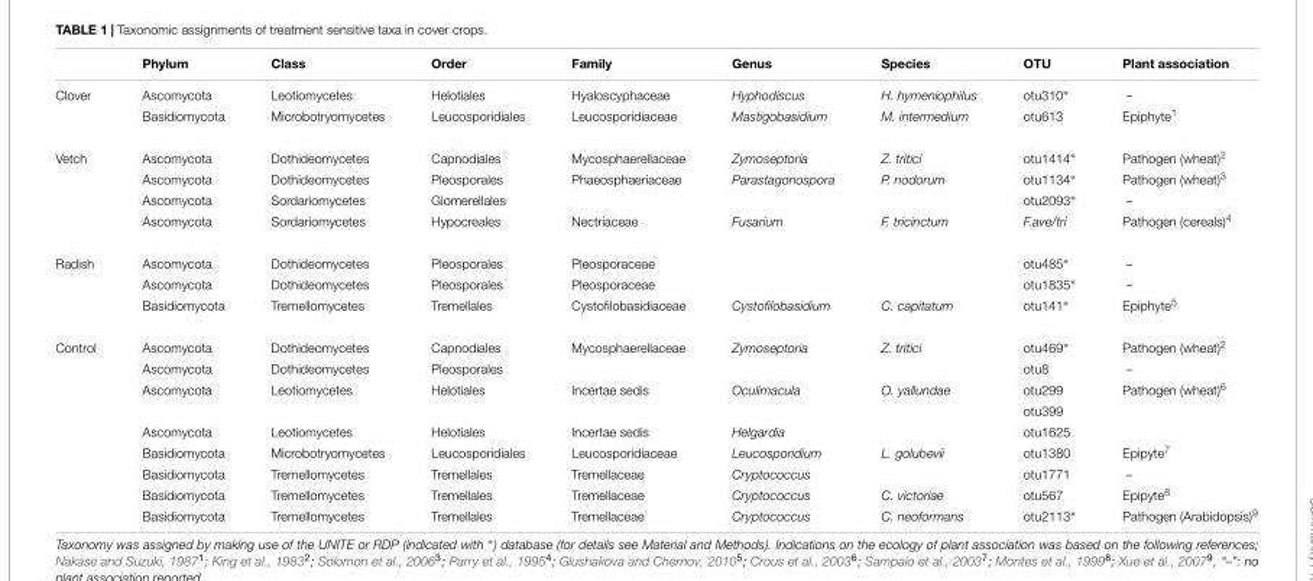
<table><thead><tr><td></td><td>Phylum</td><td>Class</td><td>Order</td><td>Family</td><td>Genus</td><td>Species</td><td>OTU</td><td>Plant association</td></tr></thead><tbody><tr><td rowspan="2">Clover</td><td>Ascomycota</td><td>Leotiomycetes</td><td>Helotiales</td><td>Hyaloscyphaceae</td><td>Hyphodiscus</td><td>H. hymeniophilus</td><td>otu310∗</td><td>–</td></tr><tr><td>Basidiomycota</td><td>Microbotryomycetes</td><td>Leucosporidiales</td><td>Leucosporidiaceae</td><td>Mastigobasidium</td><td>M. intermedium</td><td>otu613</td><td>Epiphyte<sup>1</sup></td></tr><tr><td rowspan="4">Vetch</td><td>Ascomycota</td><td>Dothideomycetes</td><td>Capnodiales</td><td>Mycosphaerellaceae</td><td>Zymoseptoria</td><td>Z. tritici</td><td>otu1414∗</td><td>Pathogen (wheat)<sup>2</sup></td></tr><tr><td>Ascomycota</td><td>Dothideomycetes</td><td>Pleosporales</td><td>Phaeosphaeriaceae</td><td>Parastagonospora</td><td>P. nodorum</td><td>otu1134∗</td><td>Pathogen (wheat)<sup>3</sup></td></tr><tr><td>Ascomycota</td><td>Sordariomycetes</td><td>Glomerellales</td><td></td><td></td><td></td><td>otu2093∗</td><td>–</td></tr><tr><td>Ascomycota</td><td>Sordariomycetes</td><td>Hypocreales</td><td>Nectriaceae</td><td>Fusarium</td><td>F. tricinctum</td><td>F.ave/tri</td><td>Pathogen (cereals)<sup>4</sup></td></tr><tr><td rowspan="3">Radish</td><td>Ascomycota</td><td>Dothideomycetes</td><td>Pleosporales</td><td>Pleosporaceae</td><td></td><td></td><td>otu485∗</td><td>–</td></tr><tr><td>Ascomycota</td><td>Dothideomycetes</td><td>Pleosporales</td><td>Pleosporaceae</td><td></td><td></td><td>otu1835∗</td><td>–</td></tr><tr><td>Basidiomycota</td><td>Tremellomycetes</td><td>Tremellales</td><td>Cystofilobasidiaceae</td><td>Cystofilobasidium</td><td>C. capitatum</td><td>otu141∗</td><td>Epiphyte<sup>5</sup></td></tr><tr><td rowspan="9">Control</td><td>Ascomycota</td><td>Dothideomycetes</td><td>Capnodiales</td><td>Mycosphaerellaceae</td><td>Zymoseptoria</td><td>Z. tritici</td><td>otu469∗</td><td>Pathogen (wheat)<sup>2</sup></td></tr><tr><td>Ascomycota</td><td>Dothideomycetes</td><td>Pleosporales</td><td></td><td></td><td></td><td>otu8</td><td>–</td></tr><tr><td>Ascomycota</td><td>Leotiomycetes</td><td>Helotiales</td><td>Incertae sedis</td><td>Oculimacula</td><td>O. yallundae</td><td>otu299</td><td>Pathogen (wheat)<sup>6</sup></td></tr><tr><td></td><td></td><td></td><td></td><td></td><td></td><td>otu399</td><td></td></tr><tr><td>Ascomycota</td><td>Leotiomycetes</td><td>Helotiales</td><td>Incertae sedis</td><td>Helgardia</td><td></td><td>otu1625</td><td></td></tr><tr><td>Basidiomycota</td><td>Microbotryomycetes</td><td>Leucosporidiales</td><td>Leucosporidiaceae</td><td>Leucosporidium</td><td>L. golubevii</td><td>otu1380</td><td>Epipyte<sup>7</sup></td></tr><tr><td>Basidiomycota</td><td>Tremellomycetes</td><td>Tremellales</td><td>Tremellaceae</td><td>Cryptococcus</td><td></td><td>otu1771</td><td>–</td></tr><tr><td>Basidiomycota</td><td>Tremellomycetes</td><td>Tremellales</td><td>Tremellaceae</td><td>Cryptococcus</td><td>C. victoriae</td><td>otu567</td><td>Epipyte<sup>8</sup></td></tr><tr><td>Basidiomycota</td><td>Tremellomycetes</td><td>Tremellales</td><td>Tremellaceae</td><td>Cryptococcus</td><td>C. neoformans</td><td>otu2113∗</td><td>Pathogen (Arabidopsis)<sup>9</sup></td></tr></tbody></table>